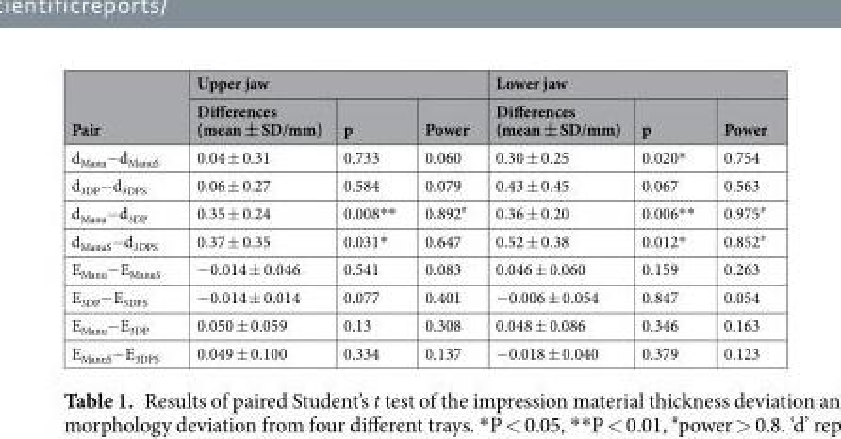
<table><thead><tr><td rowspan="2">Pair</td><td colspan="3">Upper jaw</td><td colspan="3">Lower jaw</td></tr><tr><td>Differences (mean ± SD/mm)</td><td>p</td><td>Power</td><td>Differences (mean ± SD/mm)</td><td>p</td><td>Power</td></tr></thead><tbody><tr><td>d<sub>Manu</sub>−d<sub>ManuS</sub></td><td>0.04 ± 0.31</td><td>0.733</td><td>0.060</td><td>0.30 ± 0.25</td><td>0.020*</td><td>0.754</td></tr><tr><td>d<sub>3DP</sub>−d<sub>3DPS</sub></td><td>0.06 ± 0.27</td><td>0.584</td><td>0.079</td><td>0.43 ± 0.45</td><td>0.067</td><td>0.563</td></tr><tr><td>d<sub>Manu</sub>−d<sub>3DP</sub></td><td>0.35 ± 0.24</td><td>0.008**</td><td>0.892<sup>#</sup></td><td>0.36 ± 0.20</td><td>0.006**</td><td>0.975<sup>#</sup></td></tr><tr><td>d<sub>ManuS</sub>−d<sub>3DPS</sub></td><td>0.37 ± 0.35</td><td>0.031*</td><td>0.647</td><td>0.52 ± 0.38</td><td>0.012*</td><td>0.852<sup>#</sup></td></tr><tr><td>E<sub>Manu</sub>−E<sub>ManuS</sub></td><td>−0.014 ± 0.046</td><td>0.541</td><td>0.083</td><td>0.046 ± 0.060</td><td>0.159</td><td>0.263</td></tr><tr><td>E<sub>3DP</sub>−E<sub>3DPS</sub></td><td>−0.014 ± 0.014</td><td>0.077</td><td>0.401</td><td>−0.006 ± 0.054</td><td>0.847</td><td>0.054</td></tr><tr><td>E<sub>Manu</sub>−E<sub>3DP</sub></td><td>0.050 ± 0.059</td><td>0.13</td><td>0.308</td><td>0.048 ± 0.086</td><td>0.346</td><td>0.163</td></tr><tr><td>E<sub>ManuS</sub>−E<sub>3DPS</sub></td><td>0.049 ± 0.100</td><td>0.334</td><td>0.137</td><td>−0.018 ± 0.040</td><td>0.379</td><td>0.123</td></tr></tbody></table>